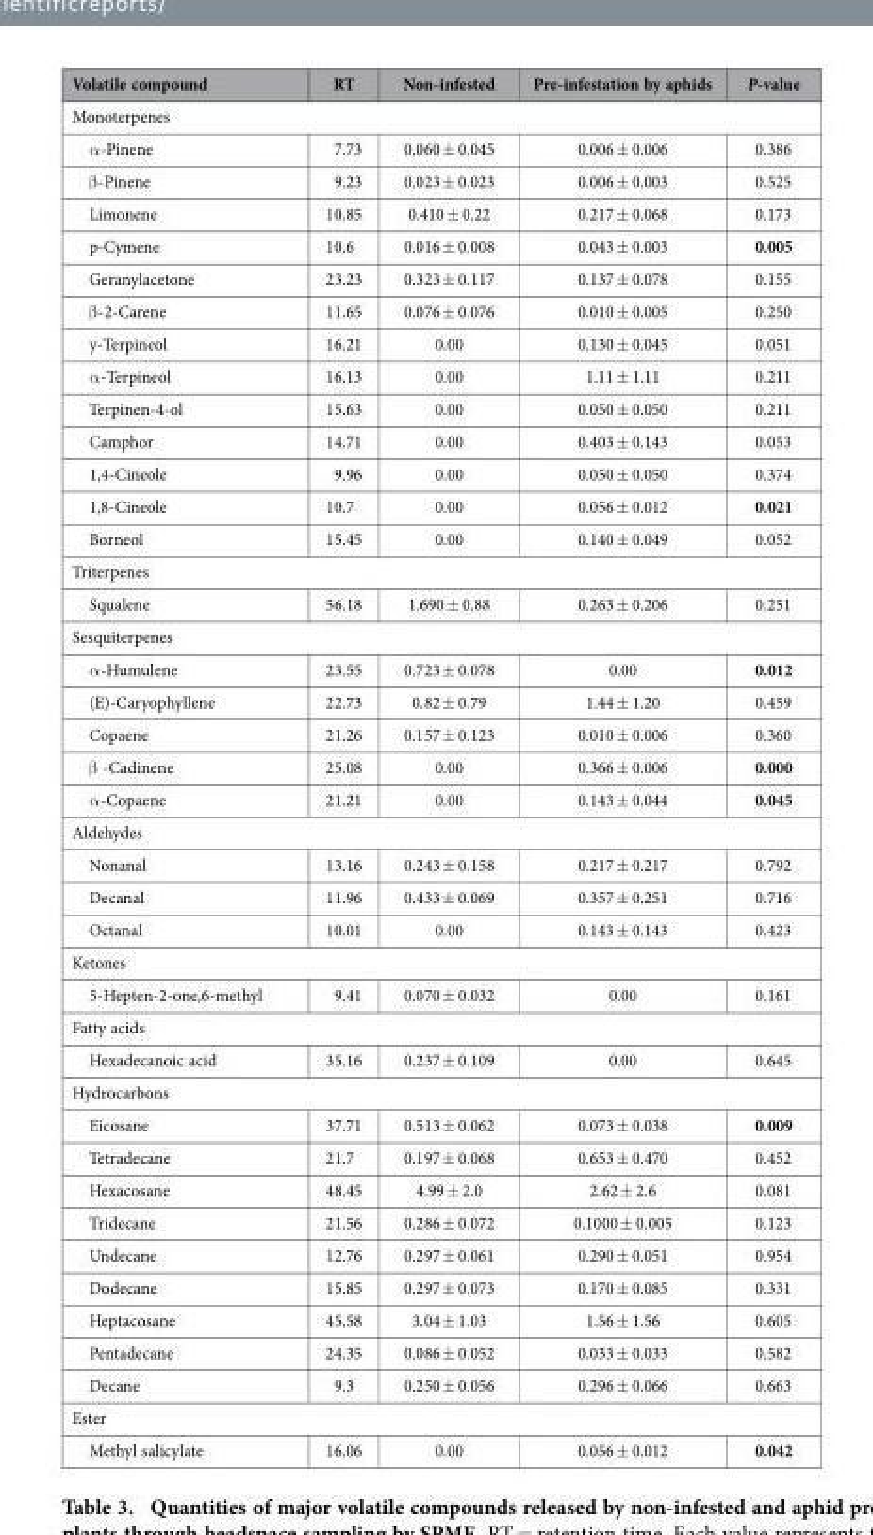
<table><thead><tr><td>Volatile compound</td><td>RT</td><td>Non-infested</td><td>Pre-infestation by aphids</td><td>P-value</td></tr></thead><tbody><tr><td colspan="5">Monoterpenes</td></tr><tr><td>α -Pinene</td><td>7.73</td><td>0.060 ± 0.045</td><td>0.006 ± 0.006</td><td>0.386</td></tr><tr><td>β -Pinene</td><td>9.23</td><td>0.023 ± 0.023</td><td>0.006 ± 0.003</td><td>0.525</td></tr><tr><td>Limonene</td><td>10.85</td><td>0.410 ± 0.22</td><td>0.217 ± 0.068</td><td>0.173</td></tr><tr><td>p-Cymene</td><td>10.6</td><td>0.016 ± 0.008</td><td>0.043 ± 0.003</td><td>0.005</td></tr><tr><td>Geranylacetone</td><td>23.23</td><td>0.323 ± 0.117</td><td>0.137 ± 0.078</td><td>0.155</td></tr><tr><td>β -2-Carene</td><td>11.65</td><td>0.076 ± 0.076</td><td>0.010 ± 0.005</td><td>0.250</td></tr><tr><td>y-Terpineol</td><td>16.21</td><td>0.00</td><td>0.130 ± 0.045</td><td>0.051</td></tr><tr><td>α -Terpineol</td><td>16.13</td><td>0.00</td><td>1.11 ± 1.11</td><td>0.211</td></tr><tr><td>Terpinen-4-ol</td><td>15.63</td><td>0.00</td><td>0.050 ± 0.050</td><td>0.211</td></tr><tr><td>Camphor</td><td>14.71</td><td>0.00</td><td>0.403 ± 0.143</td><td>0.053</td></tr><tr><td>1,4-Cineole</td><td>9.96</td><td>0.00</td><td>0.050 ± 0.050</td><td>0.374</td></tr><tr><td>1,8-Cineole</td><td>10.7</td><td>0.00</td><td>0.056 ± 0.012</td><td>0.021</td></tr><tr><td>Borneol</td><td>15.45</td><td>0.00</td><td>0.140 ± 0.049</td><td>0.052</td></tr><tr><td colspan="5">Triterpenes</td></tr><tr><td>Squalene</td><td>56.18</td><td>1.690 ± 0.88</td><td>0.263 ± 0.206</td><td>0.251</td></tr><tr><td colspan="5">Sesquiterpenes</td></tr><tr><td>α -Humulene</td><td>23.55</td><td>0.723 ± 0.078</td><td>0.00</td><td>0.012</td></tr><tr><td>(E)-Caryophyllene</td><td>22.73</td><td>0.82 ± 0.79</td><td>1.44 ± 1.20</td><td>0.459</td></tr><tr><td>Copaene</td><td>21.26</td><td>0.157 ± 0.123</td><td>0.010 ± 0.006</td><td>0.360</td></tr><tr><td>β -Cadinene</td><td>25.08</td><td>0.00</td><td>0.366 ± 0.006</td><td>0.000</td></tr><tr><td>α -Copaene</td><td>21.21</td><td>0.00</td><td>0.143 ± 0.044</td><td>0.045</td></tr><tr><td colspan="5">Aldehydes</td></tr><tr><td>Nonanal</td><td>13.16</td><td>0.243 ± 0.158</td><td>0.217 ± 0.217</td><td>0.792</td></tr><tr><td>Decanal</td><td>11.96</td><td>0.433 ± 0.069</td><td>0.357 ± 0.251</td><td>0.716</td></tr><tr><td>Octanal</td><td>10.01</td><td>0.00</td><td>0.143 ± 0.143</td><td>0.423</td></tr><tr><td colspan="5">Ketones</td></tr><tr><td>5-Hepten-2-one,6-methyl</td><td>9.41</td><td>0.070 ± 0.032</td><td>0.00</td><td>0.161</td></tr><tr><td colspan="5">Fatty acids</td></tr><tr><td>Hexadecanoic acid</td><td>35.16</td><td>0.237 ± 0.109</td><td>0.00</td><td>0.645</td></tr><tr><td colspan="5">Hydrocarbons</td></tr><tr><td>Eicosane</td><td>37.71</td><td>0.513 ± 0.062</td><td>0.073 ± 0.038</td><td>0.009</td></tr><tr><td>Tetradecane</td><td>21.7</td><td>0.197 ± 0.068</td><td>0.653 ± 0.470</td><td>0.452</td></tr><tr><td>Hexacosane</td><td>48.45</td><td>4.99 ± 2.0</td><td>2.62 ± 2.6</td><td>0.081</td></tr><tr><td>Tridecane</td><td>21.56</td><td>0.286 ± 0.072</td><td>0.1000 ± 0.005</td><td>0.123</td></tr><tr><td>Undecane</td><td>12.76</td><td>0.297 ± 0.061</td><td>0.290 ± 0.051</td><td>0.954</td></tr><tr><td>Dodecane</td><td>15.85</td><td>0.297 ± 0.073</td><td>0.170 ± 0.085</td><td>0.331</td></tr><tr><td>Heptacosane</td><td>45.58</td><td>3.04 ± 1.03</td><td>1.56 ± 1.56</td><td>0.605</td></tr><tr><td>Pentadecane</td><td>24.35</td><td>0.086 ± 0.052</td><td>0.033 ± 0.033</td><td>0.582</td></tr><tr><td>Decane</td><td>9.3</td><td>0.250 ± 0.056</td><td>0.296 ± 0.066</td><td>0.663</td></tr><tr><td colspan="5">Ester</td></tr><tr><td>Methyl salicylate</td><td>16.06</td><td>0.00</td><td>0.056 ± 0.012</td><td>0.042</td></tr></tbody></table>